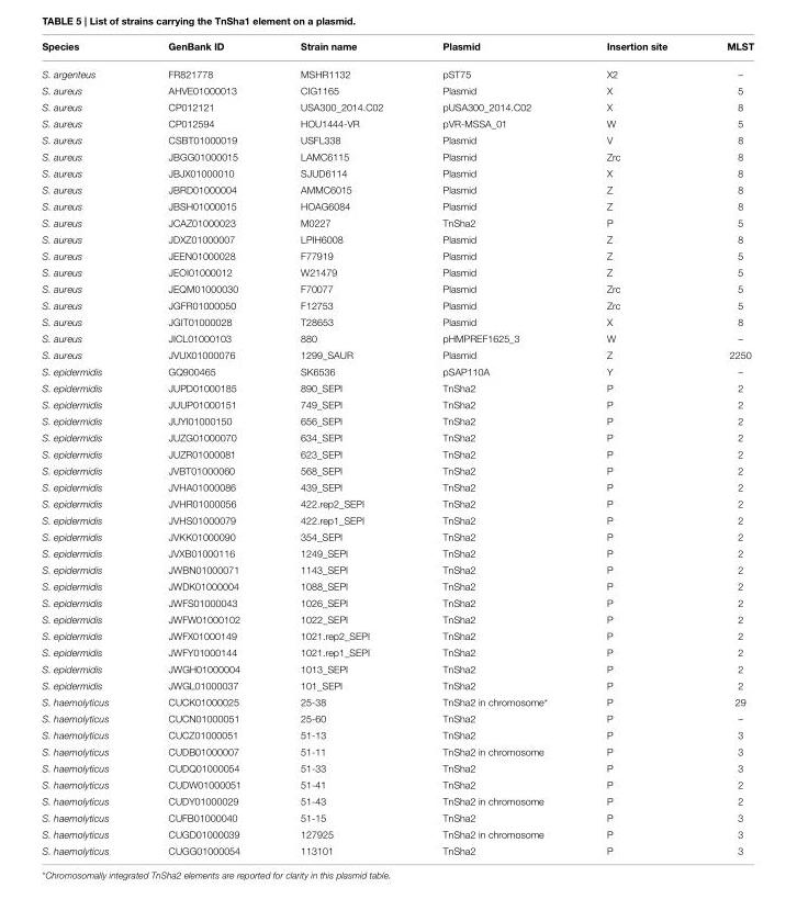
<table><thead><tr><td>Species</td><td>GenBank ID</td><td>Strain name</td><td>Plasmid</td><td>Insertion site</td><td>MLST</td></tr></thead><tbody><tr><td>S. argenteus</td><td>FR821778</td><td>MSHR1132</td><td>pST75</td><td>X2</td><td>–</td></tr><tr><td>S. aureus</td><td>AHVE01000013</td><td>CIG1165</td><td>Plasmid</td><td>X</td><td>5</td></tr><tr><td>S. aureus</td><td>CP012121</td><td>USA300_2014.C02</td><td>pUSA300_2014.C02</td><td>X</td><td>8</td></tr><tr><td>S. aureus</td><td>CP012594</td><td>HOU1444-VR</td><td>pVR-MSSA_01</td><td>W</td><td>5</td></tr><tr><td>S. aureus</td><td>CSBT01000019</td><td>USFL338</td><td>Plasmid</td><td>V</td><td>8</td></tr><tr><td>S. aureus</td><td>JBGG01000015</td><td>LAMC6115</td><td>Plasmid</td><td>Zrc</td><td>8</td></tr><tr><td>S. aureus</td><td>JBJX01000010</td><td>SJUD6114</td><td>Plasmid</td><td>X</td><td>8</td></tr><tr><td>S. aureus</td><td>JBRD01000004</td><td>AMMC6015</td><td>Plasmid</td><td>Z</td><td>8</td></tr><tr><td>S. aureus</td><td>JBSH01000015</td><td>HOAG6084</td><td>Plasmid</td><td>Z</td><td>8</td></tr><tr><td>S. aureus</td><td>JCAZ01000023</td><td>M0227</td><td>TnSha2</td><td>P</td><td>5</td></tr><tr><td>S. aureus</td><td>JDXZ01000007</td><td>LPIH6008</td><td>Plasmid</td><td>Z</td><td>8</td></tr><tr><td>S. aureus</td><td>JEEN01000028</td><td>F77919</td><td>Plasmid</td><td>Z</td><td>5</td></tr><tr><td>S. aureus</td><td>JEOI01000012</td><td>W21479</td><td>Plasmid</td><td>Z</td><td>5</td></tr><tr><td>S. aureus</td><td>JEQM01000030</td><td>F70077</td><td>Plasmid</td><td>Zrc</td><td>5</td></tr><tr><td>S. aureus</td><td>JGFR01000050</td><td>F12753</td><td>Plasmid</td><td>Zrc</td><td>5</td></tr><tr><td>S. aureus</td><td>JGIT01000028</td><td>T28653</td><td>Plasmid</td><td>X</td><td>8</td></tr><tr><td>S. aureus</td><td>JICL01000103</td><td>880</td><td>pHMPREF1625_3</td><td>W</td><td>–</td></tr><tr><td>S. aureus</td><td>JVUX01000076</td><td>1299_SAUR</td><td>Plasmid</td><td>Z</td><td>2250</td></tr><tr><td>S. epidermidis</td><td>GQ900465</td><td>SK6536</td><td>pSAP110A</td><td>Y</td><td>–</td></tr><tr><td>S. epidermidis</td><td>JUPD01000185</td><td>890_SEPI</td><td>TnSha2</td><td>P</td><td>2</td></tr><tr><td>S. epidermidis</td><td>JUUP01000151</td><td>749_SEPI</td><td>TnSha2</td><td>P</td><td>2</td></tr><tr><td>S. epidermidis</td><td>JUYI01000150</td><td>656_SEPI</td><td>TnSha2</td><td>P</td><td>2</td></tr><tr><td>S. epidermidis</td><td>JUZG01000070</td><td>634_SEPI</td><td>TnSha2</td><td>P</td><td>2</td></tr><tr><td>S. epidermidis</td><td>JUZR01000081</td><td>623_SEPI</td><td>TnSha2</td><td>P</td><td>2</td></tr><tr><td>S. epidermidis</td><td>JVBT01000060</td><td>568_SEPI</td><td>TnSha2</td><td>P</td><td>2</td></tr><tr><td>S. epidermidis</td><td>JVHA01000086</td><td>439_SEPI</td><td>TnSha2</td><td>P</td><td>2</td></tr><tr><td>S. epidermidis</td><td>JVHR01000056</td><td>422.rep2_SEPI</td><td>TnSha2</td><td>P</td><td>2</td></tr><tr><td>S. epidermidis</td><td>JVHS01000079</td><td>422.rep1_SEPI</td><td>TnSha2</td><td>P</td><td>2</td></tr><tr><td>S. epidermidis</td><td>JVKK01000090</td><td>354_SEPI</td><td>TnSha2</td><td>P</td><td>2</td></tr><tr><td>S. epidermidis</td><td>JVXB01000116</td><td>1249_SEPI</td><td>TnSha2</td><td>P</td><td>2</td></tr><tr><td>S. epidermidis</td><td>JWBN01000071</td><td>1143_SEPI</td><td>TnSha2</td><td>P</td><td>2</td></tr><tr><td>S. epidermidis</td><td>JWDK01000004</td><td>1088_SEPI</td><td>TnSha2</td><td>P</td><td>2</td></tr><tr><td>S. epidermidis</td><td>JWFS01000043</td><td>1026_SEPI</td><td>TnSha2</td><td>P</td><td>2</td></tr><tr><td>S. epidermidis</td><td>JWFW01000102</td><td>1022_SEPI</td><td>TnSha2</td><td>P</td><td>2</td></tr><tr><td>S. epidermidis</td><td>JWFX01000149</td><td>1021.rep2_SEPI</td><td>TnSha2</td><td>P</td><td>2</td></tr><tr><td>S. epidermidis</td><td>JWFY01000144</td><td>1021.rep1_SEPI</td><td>TnSha2</td><td>P</td><td>2</td></tr><tr><td>S. epidermidis</td><td>JWGH01000004</td><td>1013_SEPI</td><td>TnSha2</td><td>P</td><td>2</td></tr><tr><td>S. epidermidis</td><td>JWGL01000037</td><td>101_SEPI</td><td>TnSha2</td><td>P</td><td>2</td></tr><tr><td>S. haemolyticus</td><td>CUCK01000025</td><td>25-38</td><td>TnSha2 in chromosome*</td><td>P</td><td>29</td></tr><tr><td>S. haemolyticus</td><td>CUCN01000051</td><td>25-60</td><td>TnSha2</td><td>P</td><td>–</td></tr><tr><td>S. haemolyticus</td><td>CUCZ01000051</td><td>51-13</td><td>TnSha2</td><td>P</td><td>3</td></tr><tr><td>S. haemolyticus</td><td>CUDB01000007</td><td>51-11</td><td>TnSha2 in chromosome</td><td>P</td><td>3</td></tr><tr><td>S. haemolyticus</td><td>CUDQ01000054</td><td>51-33</td><td>TnSha2</td><td>P</td><td>3</td></tr><tr><td>S. haemolyticus</td><td>CUDW01000051</td><td>51-41</td><td>TnSha2</td><td>P</td><td>2</td></tr><tr><td>S. haemolyticus</td><td>CUDY01000029</td><td>51-43</td><td>TnSha2 in chromosome</td><td>P</td><td>2</td></tr><tr><td>S. haemolyticus</td><td>CUFB01000040</td><td>51-15</td><td>TnSha2</td><td>P</td><td>3</td></tr><tr><td>S. haemolyticus</td><td>CUGD01000039</td><td>127925</td><td>TnSha2 in chromosome</td><td>P</td><td>3</td></tr><tr><td>S. haemolyticus</td><td>CUGG01000054</td><td>113101</td><td>TnSha2</td><td>P</td><td>3</td></tr></tbody></table>